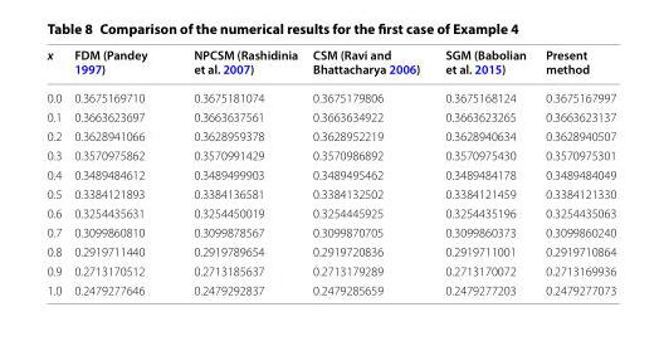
<table><thead><tr><td>x</td><td>FDM (Pandey 1997)</td><td>NPCSM (Rashidinia et al. 2007)</td><td>CSM (Ravi and Bhattacharya 2006)</td><td>SGM (Babolian et al. 2015)</td><td>Present method</td></tr></thead><tbody><tr><td>0.0</td><td>0.3675169710</td><td>0.3675181074</td><td>0.3675179806</td><td>0.3675168124</td><td>0.3675167997</td></tr><tr><td>0.1</td><td>0.3663623697</td><td>0.3663637561</td><td>0.3663634922</td><td>0.3663623265</td><td>0.3663623137</td></tr><tr><td>0.2</td><td>0.3628941066</td><td>0.3628959378</td><td>0.3628952219</td><td>0.3628940634</td><td>0.3628940507</td></tr><tr><td>0.3</td><td>0.3570975862</td><td>0.3570991429</td><td>0.3570986892</td><td>0.3570975430</td><td>0.3570975301</td></tr><tr><td>0.4</td><td>0.3489484612</td><td>0.3489499903</td><td>0.3489495462</td><td>0.3489484178</td><td>0.3489484049</td></tr><tr><td>0.5</td><td>0.3384121893</td><td>0.3384136581</td><td>0.3384132502</td><td>0.3384121459</td><td>0.3384121330</td></tr><tr><td>0.6</td><td>0.3254435631</td><td>0.3254450019</td><td>0.3254445925</td><td>0.3254435196</td><td>0.3254435063</td></tr><tr><td>0.7</td><td>0.3099860810</td><td>0.3099878567</td><td>0.3099870705</td><td>0.3099860373</td><td>0.3099860240</td></tr><tr><td>0.8</td><td>0.2919711440</td><td>0.2919789654</td><td>0.2919720836</td><td>0.2919711001</td><td>0.2919710864</td></tr><tr><td>0.9</td><td>0.2713170512</td><td>0.2713185637</td><td>0.2713179289</td><td>0.2713170072</td><td>0.2713169936</td></tr><tr><td>1.0</td><td>0.2479277646</td><td>0.2479292837</td><td>0.2479285659</td><td>0.2479277203</td><td>0.2479277073</td></tr></tbody></table>